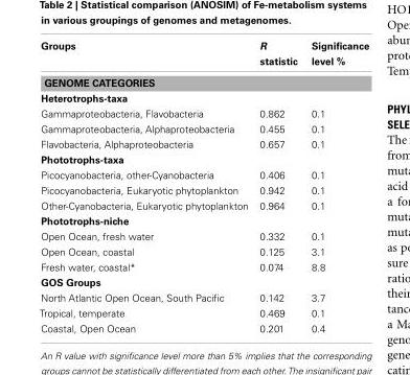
<table><thead><tr><td>Groups</td><td>R statistic</td><td>Significance level %</td></tr></thead><tbody><tr><td colspan="3">GENOME CATEGORIES</td></tr><tr><td colspan="3">Heterotrophs-taxa</td></tr><tr><td>Gammaproteobacteria, Flavobacteria</td><td>0.862</td><td>0.1</td></tr><tr><td>Gammaproteobacteria, Alphaproteobacteria</td><td>0.455</td><td>0.1</td></tr><tr><td>Flavobacteria, Alphaproteobacteria</td><td>0.657</td><td>0.1</td></tr><tr><td colspan="3">Phototrophs-taxa</td></tr><tr><td>Picocyanobacteria, other-Cyanobacteria</td><td>0.406</td><td>0.1</td></tr><tr><td>Picocyanobacteria, Eukaryotic phytoplankton</td><td>0.942</td><td>0.1</td></tr><tr><td>Other-Cyanobacteria, Eukaryotic phytoplankton</td><td>0.964</td><td>0.1</td></tr><tr><td colspan="3">Phototrophs-niche</td></tr><tr><td>Open Ocean, fresh water</td><td>0.332</td><td>0.1</td></tr><tr><td>Open Ocean, coastal</td><td>0.125</td><td>3.1</td></tr><tr><td>Fresh water, coastal*</td><td>0.074</td><td>8.8</td></tr><tr><td colspan="3">GOS Groups</td></tr><tr><td>North Atlantic Open Ocean, South Pacific</td><td>0.142</td><td>3.7</td></tr><tr><td>Tropical, temperate</td><td>0.469</td><td>0.1</td></tr><tr><td>Coastal, Open Ocean</td><td>0.201</td><td>0.4</td></tr></tbody></table>